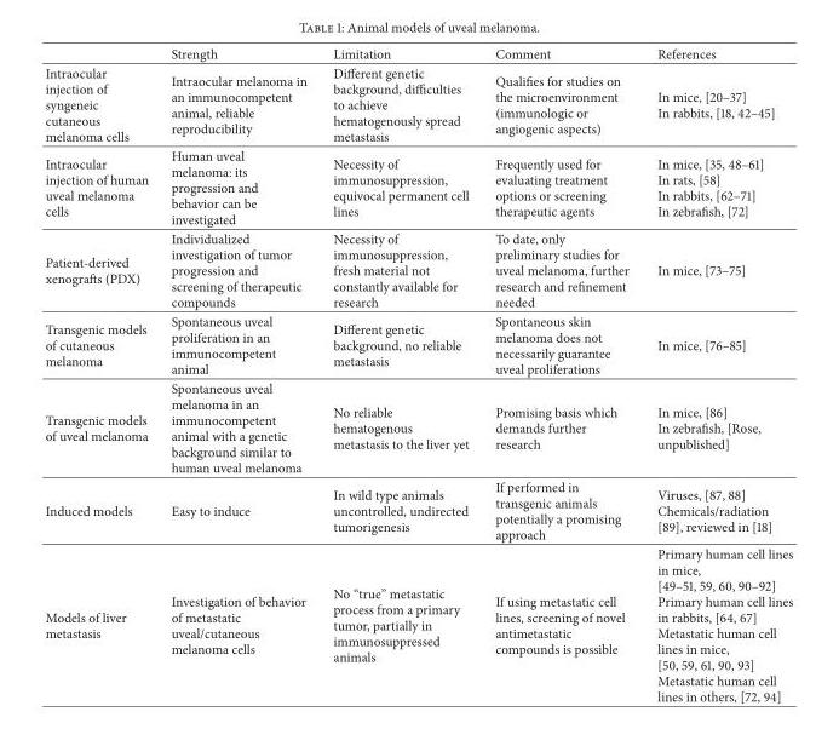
<table><thead><tr><td></td><td>Strength</td><td>Limitation</td><td>Comment</td><td>References</td></tr></thead><tbody><tr><td>Intraocular injection of syngeneic cutaneous melanoma cells</td><td>Intraocular melanoma in an immunocompetent animal, reliable reproducibility</td><td>Different genetic background, difficulties to achieve hematogenously spread metastasis</td><td>Qualifies for studies on the microenvironment (immunologic or angiogenic aspects)</td><td>In mice, [20–37] In rabbits, [18, 42–45]</td></tr><tr><td>Intraocular injection of human uveal melanoma cells</td><td>Human uveal melanoma: its progression and behavior can be investigated</td><td>Necessity of immunosuppression, equivocal permanent cell lines</td><td>Frequently used for evaluating treatment options or screening therapeutic agents</td><td>In mice, [35, 48–61] In rats, [58] In rabbits, [62–71] In zebrafish, [72]</td></tr><tr><td>Patient-derived xenografts (PDX)</td><td>Individualized investigation of tumor progression and screening of therapeutic compounds</td><td>Necessity of immunosuppression, fresh material not constantly available for research</td><td>To date, only preliminary studies for uveal melanoma, further research and refinement needed</td><td>In mice, [73–75]</td></tr><tr><td>Transgenic models of cutaneous melanoma</td><td>Spontaneous uveal proliferation in an immunocompetent animal</td><td>Different genetic background, no reliable metastasis</td><td>Spontaneous skin melanoma does not necessarily guarantee uveal proliferations</td><td>In mice, [76–85]</td></tr><tr><td>Transgenic models of uveal melanoma</td><td>Spontaneous uveal melanoma in an immunocompetent animal with a genetic background similar to human uveal melanoma</td><td>No reliable hematogenous metastasis to the liver yet</td><td>Promising basis which demands further research</td><td>In mice, [86] In zebrafish, [Rose, unpublished]</td></tr><tr><td>Induced models</td><td>Easy to induce</td><td>In wild type animals uncontrolled, undirected tumorigenesis</td><td>If performed in transgenic animals potentially a promising approach</td><td>Viruses, [87, 88] Chemicals/radiation [89], reviewed in [18]</td></tr><tr><td>Models of liver metastasis</td><td>Investigation of behavior of metastatic uveal/cutaneous melanoma cells</td><td>No “true” metastatic process from a primary tumor, partially in immunosuppressed animals</td><td>If using metastatic cell lines, screening of novel antimetastatic compounds is possible</td><td>Primary human cell lines in mice, [49–51, 59, 60, 90–92] Primary human cell lines in rabbits, [64, 67] Metastatic human cell lines in mice, [50, 59, 61, 90, 93] Metastatic human cell lines in others, [72, 94]</td></tr></tbody></table>